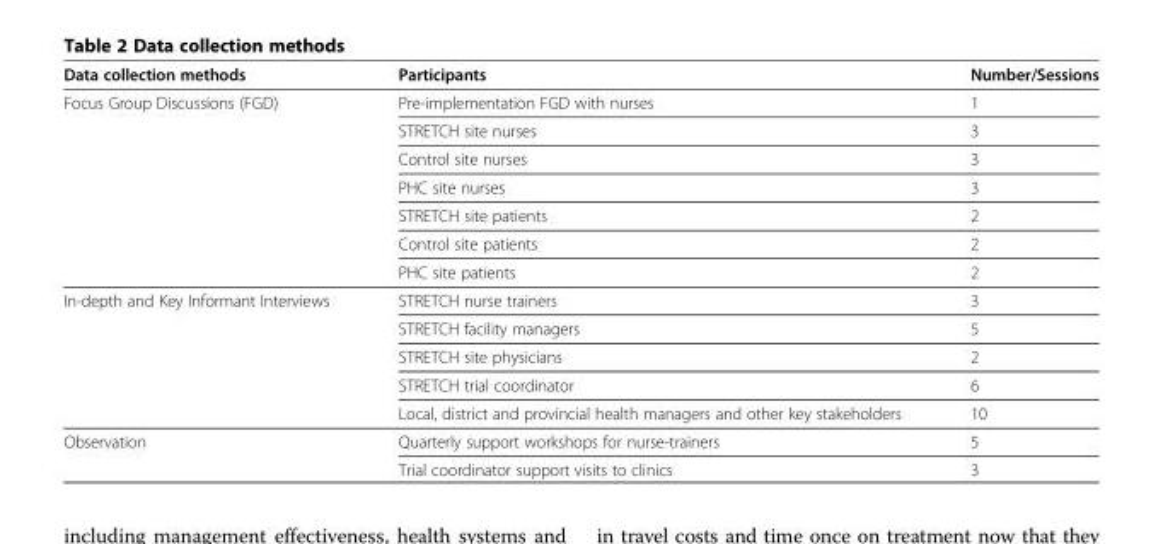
<table><thead><tr><td>Data collection methods</td><td>Participants</td><td>Number/Sessions</td></tr></thead><tbody><tr><td rowspan="7">Focus Group Discussions (FGD)</td><td>Pre-implementation FGD with nurses</td><td>1</td></tr><tr><td>STRETCH site nurses</td><td>3</td></tr><tr><td>Control site nurses</td><td>3</td></tr><tr><td>PHC site nurses</td><td>3</td></tr><tr><td>STRETCH site patients</td><td>2</td></tr><tr><td>Control site patients</td><td>2</td></tr><tr><td>PHC site patients</td><td>2</td></tr><tr><td rowspan="5">In-depth and Key Informant Interviews</td><td>STRETCH nurse trainers</td><td>3</td></tr><tr><td>STRETCH facility managers</td><td>5</td></tr><tr><td>STRETCH site physicians</td><td>2</td></tr><tr><td>STRETCH trial coordinator</td><td>6</td></tr><tr><td>Local, district and provincial health managers and other key stakeholders</td><td>10</td></tr><tr><td rowspan="2">Observation</td><td>Quarterly support workshops for nurse-trainers</td><td>5</td></tr><tr><td>Trial coordinator support visits to clinics</td><td>3</td></tr></tbody></table>